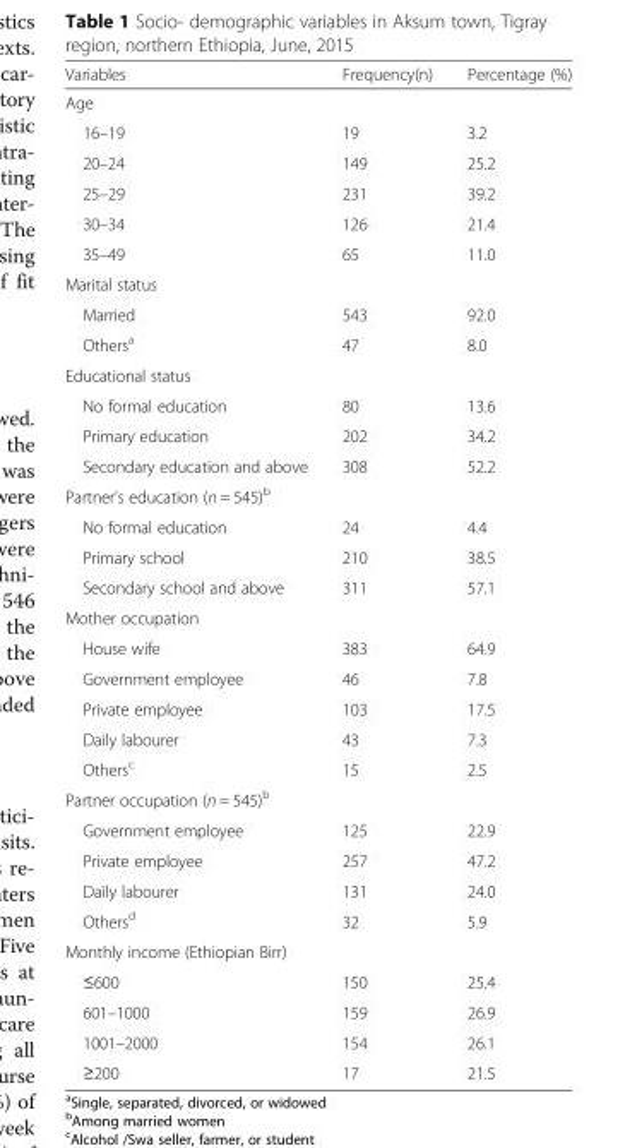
<table><thead><tr><td>Variables</td><td>Frequency(n)</td><td>Percentage (%)</td></tr></thead><tbody><tr><td colspan="3">Age</td></tr><tr><td>16–19</td><td>19</td><td>3.2</td></tr><tr><td>20–24</td><td>149</td><td>25.2</td></tr><tr><td>25–29</td><td>231</td><td>39.2</td></tr><tr><td>30–34</td><td>126</td><td>21.4</td></tr><tr><td>35–49</td><td>65</td><td>11.0</td></tr><tr><td colspan="3">Marital status</td></tr><tr><td>Married</td><td>543</td><td>92.0</td></tr><tr><td>Others<sup>a</sup></td><td>47</td><td>8.0</td></tr><tr><td colspan="3">Educational status</td></tr><tr><td>No formal education</td><td>80</td><td>13.6</td></tr><tr><td>Primary education</td><td>202</td><td>34.2</td></tr><tr><td>Secondary education and above</td><td>308</td><td>52.2</td></tr><tr><td colspan="3">Partner’s education (n = 545)<sup>b</sup></td></tr><tr><td>No formal education</td><td>24</td><td>4.4</td></tr><tr><td>Primary school</td><td>210</td><td>38.5</td></tr><tr><td>Secondary school and above</td><td>311</td><td>57.1</td></tr><tr><td colspan="3">Mother occupation</td></tr><tr><td>House wife</td><td>383</td><td>64.9</td></tr><tr><td>Government employee</td><td>46</td><td>7.8</td></tr><tr><td>Private employee</td><td>103</td><td>17.5</td></tr><tr><td>Daily labourer</td><td>43</td><td>7.3</td></tr><tr><td>Others<sup>c</sup></td><td>15</td><td>2.5</td></tr><tr><td colspan="3">Partner occupation (n = 545)<sup>b</sup></td></tr><tr><td>Government employee</td><td>125</td><td>22.9</td></tr><tr><td>Private employee</td><td>257</td><td>47.2</td></tr><tr><td>Daily labourer</td><td>131</td><td>24.0</td></tr><tr><td>Others<sup>d</sup></td><td>32</td><td>5.9</td></tr><tr><td colspan="3">Monthly income (Ethiopian Birr)</td></tr><tr><td>≤600</td><td>150</td><td>25.4</td></tr><tr><td>601–1000</td><td>159</td><td>26.9</td></tr><tr><td>1001–2000</td><td>154</td><td>26.1</td></tr><tr><td>≥200</td><td>17</td><td>21.5</td></tr></tbody></table>